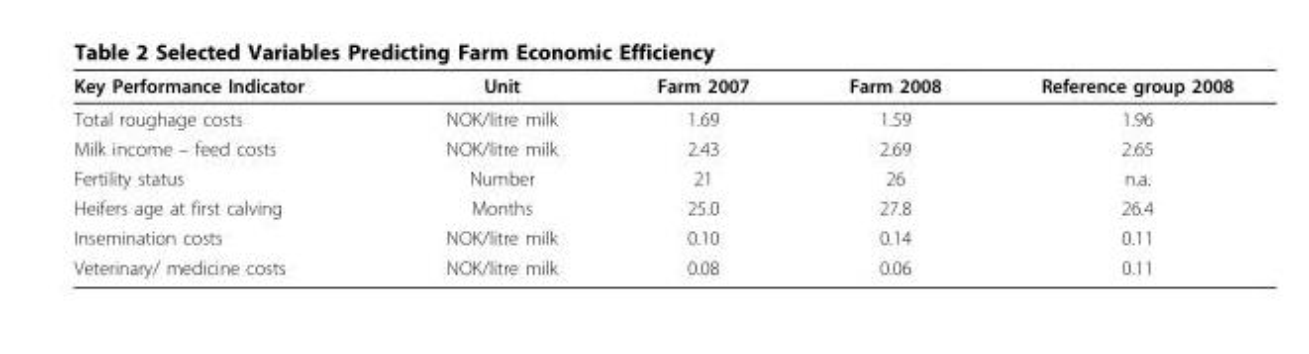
<table><thead><tr><td>Key Performance Indicator</td><td>Unit</td><td>Farm 2007</td><td>Farm 2008</td><td>Reference group 2008</td></tr></thead><tbody><tr><td>Total roughage costs</td><td>NOK/litre milk</td><td>1.69</td><td>1.59</td><td>1.96</td></tr><tr><td>Milk income – feed costs</td><td>NOK/litre milk</td><td>2.43</td><td>2.69</td><td>2.65</td></tr><tr><td>Fertility status</td><td>Number</td><td>21</td><td>26</td><td>n.a.</td></tr><tr><td>Heifers age at first calving</td><td>Months</td><td>25.0</td><td>27.8</td><td>26.4</td></tr><tr><td>Insemination costs</td><td>NOK/litre milk</td><td>0.10</td><td>0.14</td><td>0.11</td></tr><tr><td>Veterinary/ medicine costs</td><td>NOK/litre milk</td><td>0.08</td><td>0.06</td><td>0.11</td></tr></tbody></table>